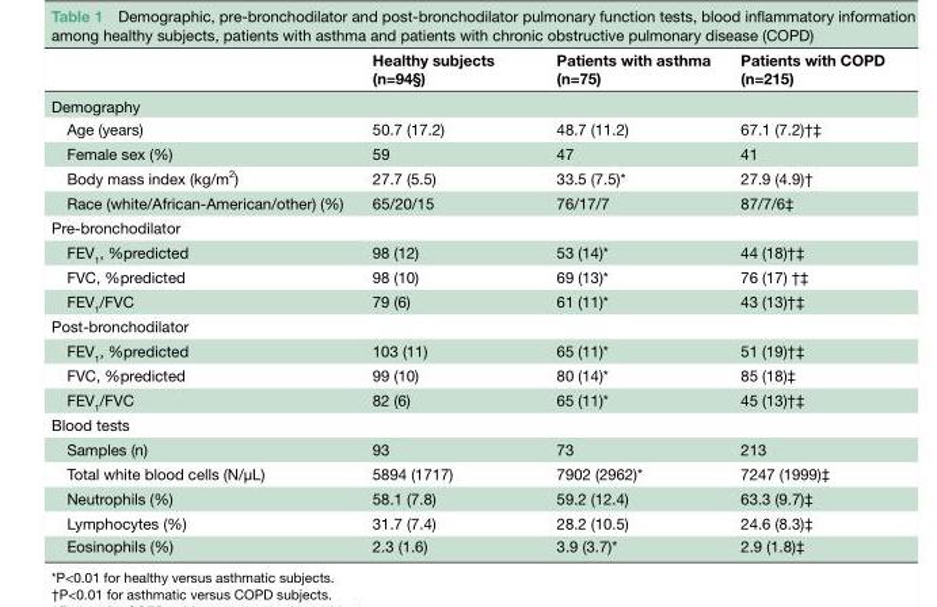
<table><thead><tr><td></td><td>Healthy subjects (n=94§)</td><td>Patients with asthma (n=75)</td><td>Patients with COPD (n=215)</td></tr></thead><tbody><tr><td colspan="4">Demography</td></tr><tr><td>Age (years)</td><td>50.7 (17.2)</td><td>48.7 (11.2)</td><td>67.1 (7.2)†‡</td></tr><tr><td>Female sex (%)</td><td>59</td><td>47</td><td>41</td></tr><tr><td>Body mass index (kg/m<sup>2</sup>)</td><td>27.7 (5.5)</td><td>33.5 (7.5)*</td><td>27.9 (4.9)†</td></tr><tr><td>Race (white/African-American/other) (%)</td><td>65/20/15</td><td>76/17/7</td><td>87/7/6‡</td></tr><tr><td colspan="4">Pre-bronchodilator</td></tr><tr><td>FEV<sub>1</sub>, %predicted</td><td>98 (12)</td><td>53 (14)*</td><td>44 (18)†‡</td></tr><tr><td>FVC, %predicted</td><td>98 (10)</td><td>69 (13)*</td><td>76 (17) †‡</td></tr><tr><td>FEV<sub>1</sub>/FVC</td><td>79 (6)</td><td>61 (11)*</td><td>43 (13)†‡</td></tr><tr><td colspan="4">Post-bronchodilator</td></tr><tr><td>FEV<sub>1</sub>, %predicted</td><td>103 (11)</td><td>65 (11)*</td><td>51 (19)†‡</td></tr><tr><td>FVC, %predicted</td><td>99 (10)</td><td>80 (14)*</td><td>85 (18)‡</td></tr><tr><td>FEV<sub>1</sub>/FVC</td><td>82 (6)</td><td>65 (11)*</td><td>45 (13)†‡</td></tr><tr><td colspan="4">Blood tests</td></tr><tr><td>Samples (n)</td><td>93</td><td>73</td><td>213</td></tr><tr><td>Total white blood cells (N/μL)</td><td>5894 (1717)</td><td>7902 (2962)*</td><td>7247 (1999)‡</td></tr><tr><td>Neutrophils (%)</td><td>58.1 (7.8)</td><td>59.2 (12.4)</td><td>63.3 (9.7)‡</td></tr><tr><td>Lymphocytes (%)</td><td>31.7 (7.4)</td><td>28.2 (10.5)</td><td>24.6 (8.3)‡</td></tr><tr><td>Eosinophils (%)</td><td>2.3 (1.6)</td><td>3.9 (3.7)*</td><td>2.9 (1.8)‡</td></tr></tbody></table>